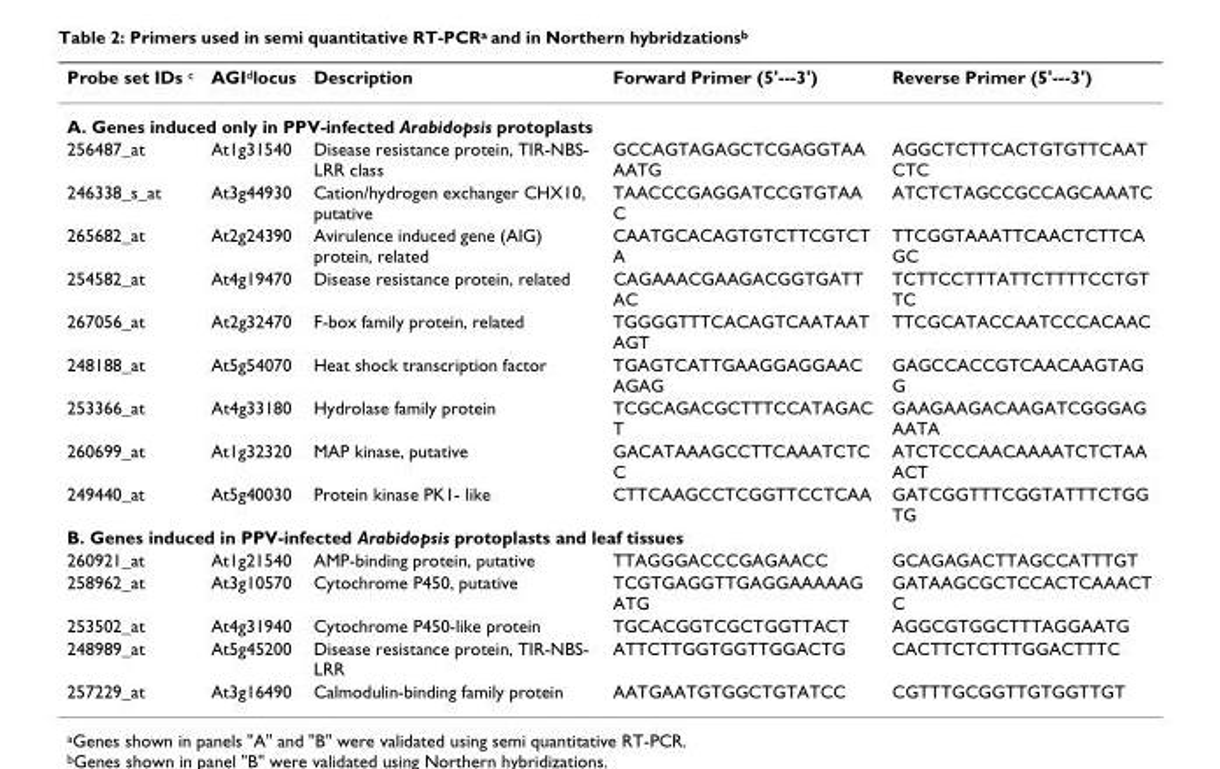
<table><thead><tr><td>Probe set IDs <sup>c</sup></td><td>AGI<sup>d</sup>locus</td><td>Description</td><td>Forward Primer (5&#x27;---3&#x27;)</td><td>Reverse Primer (5&#x27;---3&#x27;)</td></tr></thead><tbody><tr><td colspan="5">A. Genes induced only in PPV-infected Arabidopsis protoplasts</td></tr><tr><td>256487_at</td><td>At1g31540</td><td>Disease resistance protein, TIR-NBS- LRR class</td><td>GCCAGTAGAGCTCGAGGTAA AATG</td><td>AGGCTCTTCACTGTGTTCAAT CTC</td></tr><tr><td>246338_s_at</td><td>At3g44930</td><td>Cation/hydrogen exchanger CHX10, putative</td><td>TAACCCGAGGATCCGTGTAA C</td><td>ATCTCTAGCCGCCAGCAAATC</td></tr><tr><td>265682_at</td><td>At2g24390</td><td>Avirulence induced gene (AIG) protein, related</td><td>CAATGCACAGTGTCTTCGTCT A</td><td>TTCGGTAAATTCAACTCTTCA GC</td></tr><tr><td>254582_at</td><td>At4g19470</td><td>Disease resistance protein, related</td><td>CAGAAACGAAGACGGTGATT AC</td><td>TCTTCCTTTATTCTTTTCCTGT TC</td></tr><tr><td>267056_at</td><td>At2g32470</td><td>F-box family protein, related</td><td>TGGGGTTTCACAGTCAATAAT AGT</td><td>TTCGCATACCAATCCCACAAC</td></tr><tr><td>248188_at</td><td>At5g54070</td><td>Heat shock transcription factor</td><td>TGAGTCATTGAAGGAGGAAC AGAG</td><td>GAGCCACCGTCAACAAGTAG G</td></tr><tr><td>253366_at</td><td>At4g33180</td><td>Hydrolase family protein</td><td>TCGCAGACGCTTTCCATAGAC T</td><td>GAAGAAGACAAGATCGGGAG AATA</td></tr><tr><td>260699_at</td><td>At1g32320</td><td>MAP kinase, putative</td><td>GACATAAAGCCTTCAAATCTC C</td><td>ATCTCCCAACAAAATCTCTAA ACT</td></tr><tr><td>249440_at</td><td>At5g40030</td><td>Protein kinase PK1- like</td><td>CTTCAAGCCTCGGTTCCTCAA</td><td>GATCGGTTTCGGTATTTCTGG TG</td></tr><tr><td colspan="5">B. Genes induced in PPV-infected Arabidopsis protoplasts and leaf tissues</td></tr><tr><td>260921_at</td><td>At1g21540</td><td>AMP-binding protein, putative</td><td>TTAGGGACCCGAGAACC</td><td>GCAGAGACTTAGCCATTTGT</td></tr><tr><td>258962_at</td><td>At3g10570</td><td>Cytochrome P450, putative</td><td>TCGTGAGGTTGAGGAAAAAG ATG</td><td>GATAAGCGCTCCACTCAAACT C</td></tr><tr><td>253502_at</td><td>At4g31940</td><td>Cytochrome P450-like protein</td><td>TGCACGGTCGCTGGTTACT</td><td>AGGCGTGGCTTTAGGAATG</td></tr><tr><td>248989_at</td><td>At5g45200</td><td>Disease resistance protein, TIR-NBS- LRR</td><td>ATTCTTGGTGGTTGGACTG</td><td>CACTTCTCTTTGGACTTTC</td></tr><tr><td>257229_at</td><td>At3g16490</td><td>Calmodulin-binding family protein</td><td>AATGAATGTGGCTGTATCC</td><td>CGTTTGCGGTTGTGGTTGT</td></tr></tbody></table>